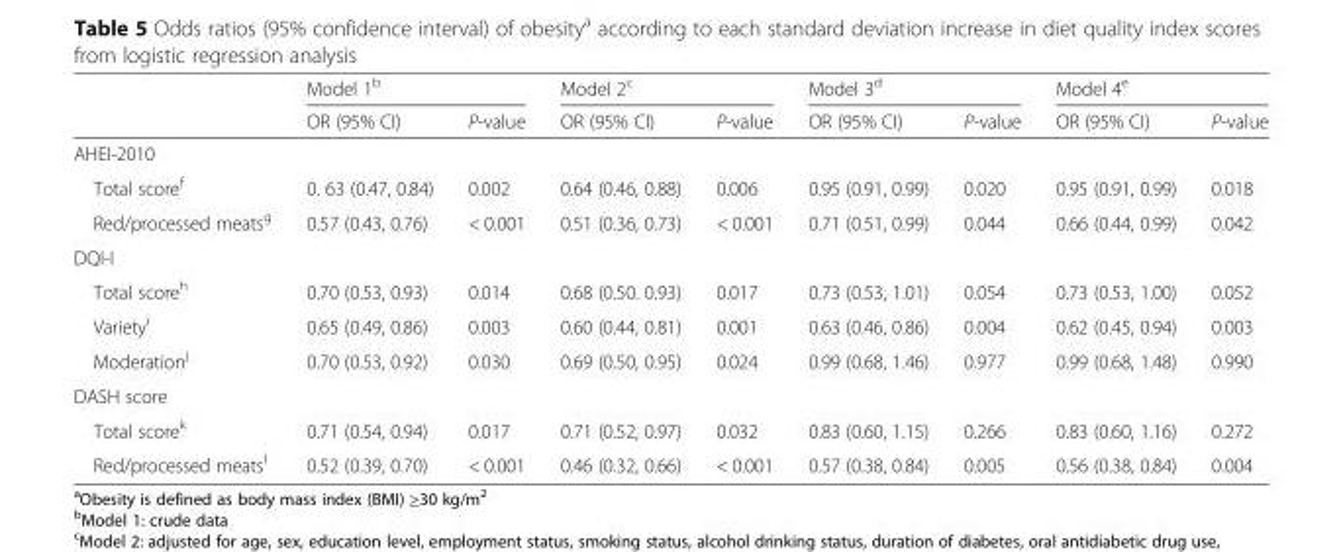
<table><thead><tr><td rowspan="2"></td><td colspan="2">Model 1<sup>b</sup></td><td colspan="2">Model 2<sup>c</sup></td><td colspan="2">Model 3<sup>d</sup></td><td colspan="2">Model 4<sup>e</sup></td></tr><tr><td>OR (95% CI)</td><td>P-value</td><td>OR (95% CI)</td><td>P-value</td><td>OR (95% CI)</td><td>P-value</td><td>OR (95% CI)</td><td>P-value</td></tr></thead><tbody><tr><td colspan="9">AHEI-2010</td></tr><tr><td>Total score<sup>f</sup></td><td>0. 63 (0.47, 0.84)</td><td>0.002</td><td>0.64 (0.46, 0.88)</td><td>0.006</td><td>0.95 (0.91, 0.99)</td><td>0.020</td><td>0.95 (0.91, 0.99)</td><td>0.018</td></tr><tr><td>Red/processed meats<sup>g</sup></td><td>0.57 (0.43, 0.76)</td><td>&lt; 0.001</td><td>0.51 (0.36, 0.73)</td><td>&lt; 0.001</td><td>0.71 (0.51, 0.99)</td><td>0.044</td><td>0.66 (0.44, 0.99)</td><td>0.042</td></tr><tr><td colspan="9">DQI-I</td></tr><tr><td>Total score<sup>h</sup></td><td>0.70 (0.53, 0.93)</td><td>0.014</td><td>0.68 (0.50. 0.93)</td><td>0.017</td><td>0.73 (0.53, 1.01)</td><td>0.054</td><td>0.73 (0.53, 1.00)</td><td>0.052</td></tr><tr><td>Variety<sup>i</sup></td><td>0.65 (0.49, 0.86)</td><td>0.003</td><td>0.60 (0.44, 0.81)</td><td>0.001</td><td>0.63 (0.46, 0.86)</td><td>0.004</td><td>0.62 (0.45, 0.94)</td><td>0.003</td></tr><tr><td>Moderation<sup>j</sup></td><td>0.70 (0.53, 0.92)</td><td>0.030</td><td>0.69 (0.50, 0.95)</td><td>0.024</td><td>0.99 (0.68, 1.46)</td><td>0.977</td><td>0.99 (0.68, 1.48)</td><td>0.990</td></tr><tr><td colspan="9">DASH score</td></tr><tr><td>Total score<sup>k</sup></td><td>0.71 (0.54, 0.94)</td><td>0.017</td><td>0.71 (0.52, 0.97)</td><td>0.032</td><td>0.83 (0.60, 1.15)</td><td>0.266</td><td>0.83 (0.60, 1.16)</td><td>0.272</td></tr><tr><td>Red/processed meats<sup>l</sup></td><td>0.52 (0.39, 0.70)</td><td>&lt; 0.001</td><td>0.46 (0.32, 0.66)</td><td>&lt; 0.001</td><td>0.57 (0.38, 0.84)</td><td>0.005</td><td>0.56 (0.38, 0.84)</td><td>0.004</td></tr></tbody></table>